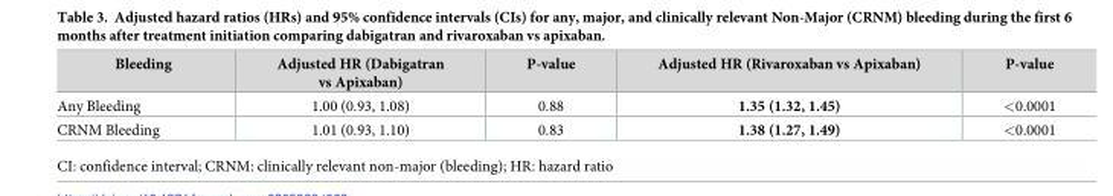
<table><thead><tr><td>Bleeding</td><td>Adjusted HR (Dabigatran vs Apixaban)</td><td>P-value</td><td>Adjusted HR (Rivaroxaban vs Apixaban)</td><td>P-value</td></tr></thead><tbody><tr><td>Any Bleeding</td><td>1.00 (0.93, 1.08)</td><td>0.88</td><td>1.35 (1.32, 1.45)</td><td>&lt;0.0001</td></tr><tr><td>CRNM Bleeding</td><td>1.01 (0.93, 1.10)</td><td>0.83</td><td>1.38 (1.27, 1.49)</td><td>&lt;0.0001</td></tr></tbody></table>